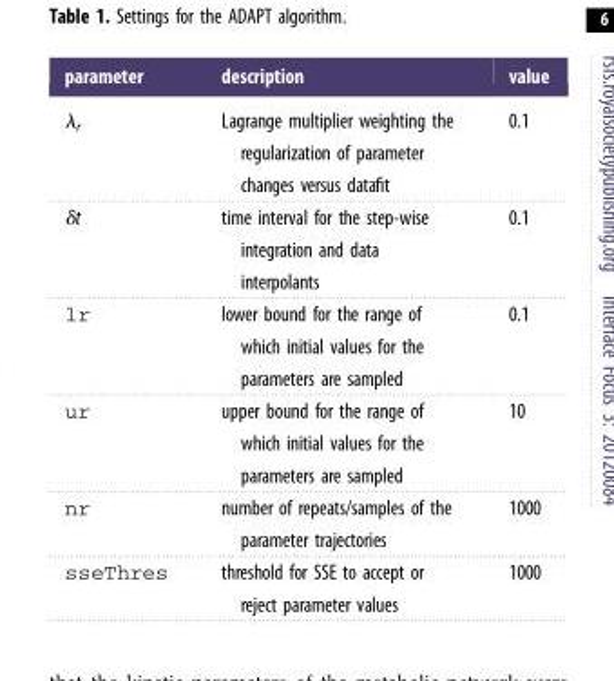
<table><thead><tr><td>parameter</td><td>description</td><td>value</td></tr></thead><tbody><tr><td>λ<sub>r</sub></td><td>Lagrange multiplier weighting the regularization of parameter changes versus datafit</td><td>0.1</td></tr><tr><td>δt</td><td>time interval for the step-wise integration and data interpolants</td><td>0.1</td></tr><tr><td>lr</td><td>lower bound for the range of which initial values for the parameters are sampled</td><td>0.1</td></tr><tr><td>ur</td><td>upper bound for the range of which initial values for the parameters are sampled</td><td>10</td></tr><tr><td>nr</td><td>number of repeats/samples of the parameter trajectories</td><td>1000</td></tr><tr><td>sseThres</td><td>threshold for SSE to accept or reject parameter values</td><td>1000</td></tr></tbody></table>